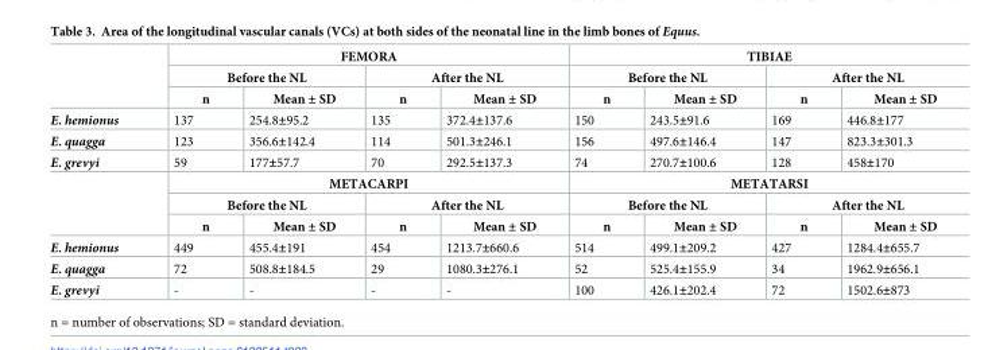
<table><thead><tr><td rowspan="3"></td><td colspan="4">FEMORA</td><td colspan="4">TIBIAE</td></tr><tr><td colspan="2">Before the NL</td><td colspan="2">After the NL</td><td colspan="2">Before the NL</td><td colspan="2">After the NL</td></tr><tr><td>n</td><td>Mean ± SD</td><td>n</td><td>Mean ± SD</td><td>n</td><td>Mean ± SD</td><td>n</td><td>Mean ± SD</td></tr></thead><tbody><tr><td>E. hemionus</td><td>137</td><td>254.8±95.2</td><td>135</td><td>372.4±137.6</td><td>150</td><td>243.5±91.6</td><td>169</td><td>446.8±177</td></tr><tr><td>E. quagga</td><td>123</td><td>356.6±142.4</td><td>114</td><td>501.3±246.1</td><td>156</td><td>497.6±146.4</td><td>147</td><td>823.3±301.3</td></tr><tr><td rowspan="4">E. grevyi</td><td>59</td><td>177±57.7</td><td>70</td><td>292.5±137.3</td><td>74</td><td>270.7±100.6</td><td>128</td><td>458±170</td></tr><tr><td colspan="4">METACARPI</td><td colspan="4">METATARSI</td></tr><tr><td colspan="2">Before the NL</td><td colspan="2">After the NL</td><td colspan="2">Before the NL</td><td colspan="2">After the NL</td></tr><tr><td>n</td><td>Mean ± SD</td><td>n</td><td>Mean ± SD</td><td>n</td><td>Mean ± SD</td><td>n</td><td>Mean ± SD</td></tr><tr><td>E. hemionus</td><td>449</td><td>455.4±191</td><td>454</td><td>1213.7±660.6</td><td>514</td><td>499.1±209.2</td><td>427</td><td>1284.4±655.7</td></tr><tr><td>E. quagga</td><td>72</td><td>508.8±184.5</td><td>29</td><td>1080.3±276.1</td><td>52</td><td>525.4±155.9</td><td>34</td><td>1962.9±656.1</td></tr><tr><td>E. grevyi</td><td>-</td><td>-</td><td>-</td><td>-</td><td>100</td><td>426.1±202.4</td><td>72</td><td>1502.6±873</td></tr></tbody></table>